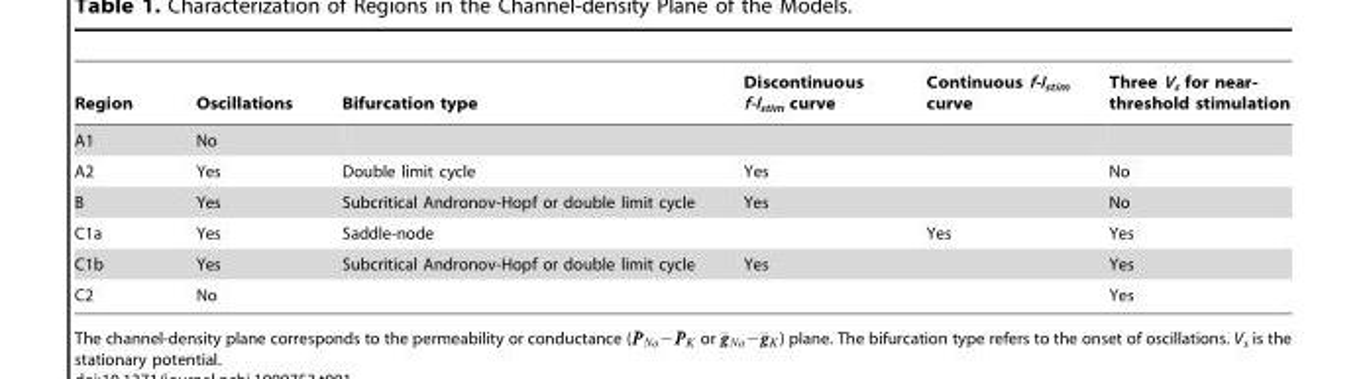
<table><thead><tr><td>Region</td><td>Oscillations</td><td>Bifurcation type</td><td>Discontinuous f-I<sub>stim</sub> curve</td><td>Continuous f-I<sub>stim</sub> curve</td><td>Three V<sub>s</sub> for near- threshold stimulation</td></tr></thead><tbody><tr><td>A1</td><td>No</td><td></td><td></td><td></td><td></td></tr><tr><td>A2</td><td>Yes</td><td>Double limit cycle</td><td>Yes</td><td></td><td>No</td></tr><tr><td>B</td><td>Yes</td><td>Subcritical Andronov-Hopf or double limit cycle</td><td>Yes</td><td></td><td>No</td></tr><tr><td>C1a</td><td>Yes</td><td>Saddle-node</td><td></td><td>Yes</td><td>Yes</td></tr><tr><td>C1b</td><td>Yes</td><td>Subcritical Andronov-Hopf or double limit cycle</td><td>Yes</td><td></td><td>Yes</td></tr><tr><td>C2</td><td>No</td><td></td><td></td><td></td><td>Yes</td></tr></tbody></table>